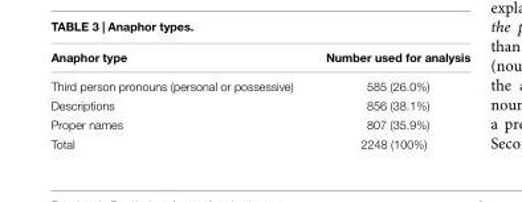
<table><thead><tr><td>Anaphor type</td><td>Number used for analysis</td></tr></thead><tbody><tr><td>Third person pronouns (personal or possessive)</td><td>585 (26.0%)</td></tr><tr><td>Descriptions</td><td>856 (38.1%)</td></tr><tr><td>Proper names</td><td>807 (35.9%)</td></tr><tr><td>Total</td><td>2248 (100%)</td></tr></tbody></table>